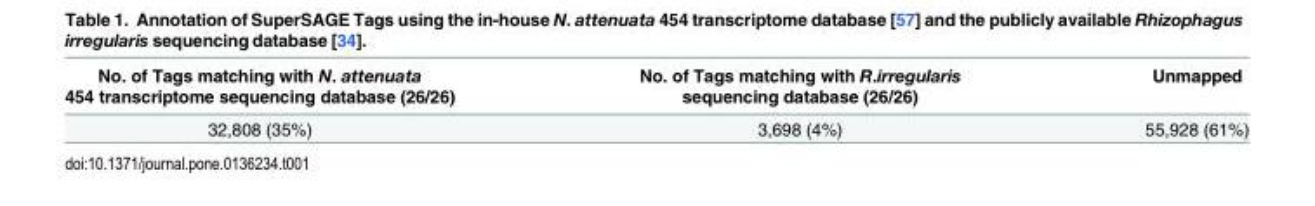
<table><thead><tr><td>No. of Tags matching with N. attenuata 454 transcriptome sequencing database (26/26)</td><td>No. of Tags matching with R.irregularis sequencing database (26/26)</td><td>Unmapped</td></tr></thead><tbody><tr><td>32,808 (35%)</td><td>3,698 (4%)</td><td>55,928 (61%)</td></tr></tbody></table>